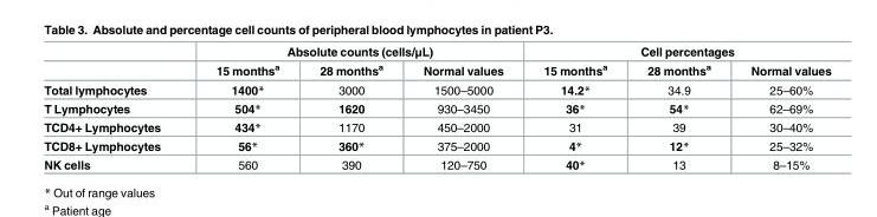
<table><thead><tr><td rowspan="2"></td><td colspan="3">Absolute counts (cells/μL)</td><td colspan="3">Cell percentages</td></tr><tr><td>15 months<sup>a</sup></td><td>28 months<sup>a</sup></td><td>Normal values</td><td>15 months<sup>a</sup></td><td>28 months<sup>a</sup></td><td>Normal values</td></tr></thead><tbody><tr><td>Total lymphocytes</td><td>1400*</td><td>3000</td><td>1500–5000</td><td>14.2*</td><td>34.9</td><td>25–60%</td></tr><tr><td>T Lymphocytes</td><td>504*</td><td>1620</td><td>930–3450</td><td>36*</td><td>54*</td><td>62–69%</td></tr><tr><td>TCD4+ Lymphocytes</td><td>434*</td><td>1170</td><td>450–2000</td><td>31</td><td>39</td><td>30–40%</td></tr><tr><td>TCD8+ Lymphocytes</td><td>56*</td><td>360*</td><td>375–2000</td><td>4*</td><td>12*</td><td>25–32%</td></tr><tr><td>NK cells</td><td>560</td><td>390</td><td>120–750</td><td>40*</td><td>13</td><td>8–15%</td></tr></tbody></table>